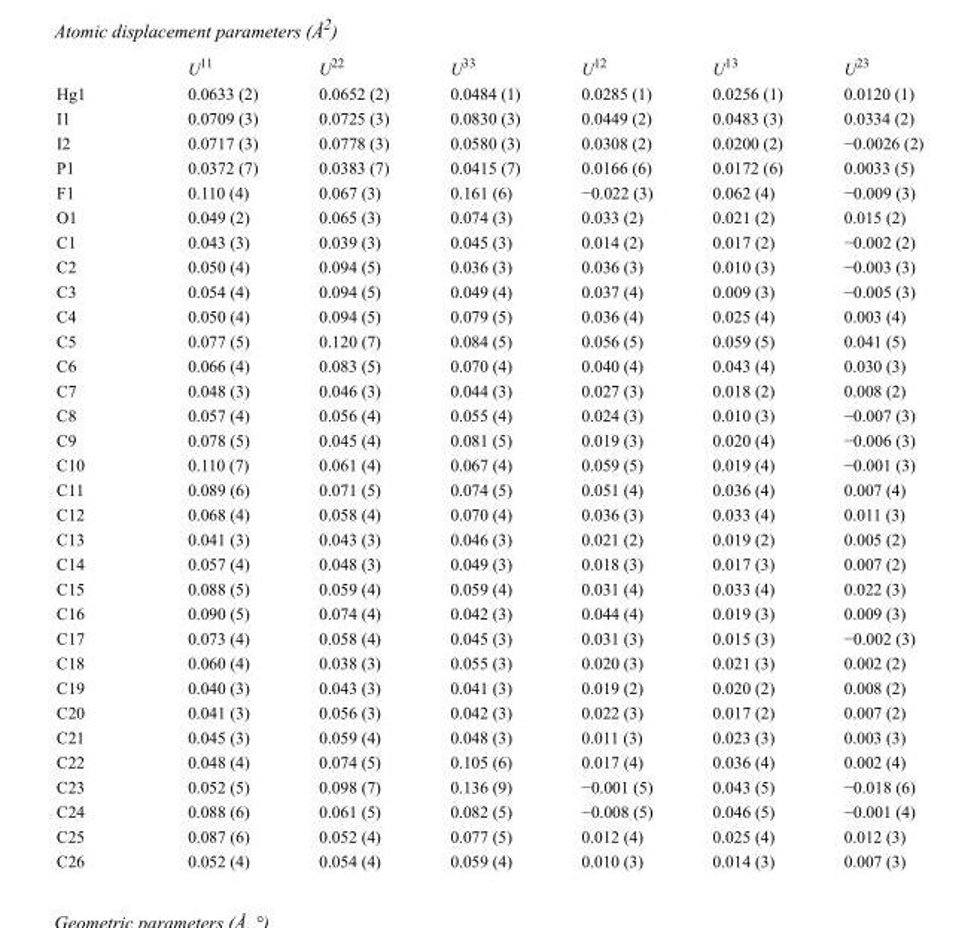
<table><thead><tr><td></td><td>U<sup>11</sup></td><td>U<sup>22</sup></td><td>U<sup>33</sup></td><td>U<sup>12</sup></td><td>U<sup>13</sup></td><td>U<sup>23</sup></td></tr></thead><tbody><tr><td>Hg1</td><td>0.0633 (2)</td><td>0.0652 (2)</td><td>0.0484 (1)</td><td>0.0285 (1)</td><td>0.0256 (1)</td><td>0.0120 (1)</td></tr><tr><td>I1</td><td>0.0709 (3)</td><td>0.0725 (3)</td><td>0.0830 (3)</td><td>0.0449 (2)</td><td>0.0483 (3)</td><td>0.0334 (2)</td></tr><tr><td>I2</td><td>0.0717 (3)</td><td>0.0778 (3)</td><td>0.0580 (3)</td><td>0.0308 (2)</td><td>0.0200 (2)</td><td>−0.0026 (2)</td></tr><tr><td>P1</td><td>0.0372 (7)</td><td>0.0383 (7)</td><td>0.0415 (7)</td><td>0.0166 (6)</td><td>0.0172 (6)</td><td>0.0033 (5)</td></tr><tr><td>F1</td><td>0.110 (4)</td><td>0.067 (3)</td><td>0.161 (6)</td><td>−0.022 (3)</td><td>0.062 (4)</td><td>−0.009 (3)</td></tr><tr><td>O1</td><td>0.049 (2)</td><td>0.065 (3)</td><td>0.074 (3)</td><td>0.033 (2)</td><td>0.021 (2)</td><td>0.015 (2)</td></tr><tr><td>C1</td><td>0.043 (3)</td><td>0.039 (3)</td><td>0.045 (3)</td><td>0.014 (2)</td><td>0.017 (2)</td><td>−0.002 (2)</td></tr><tr><td>C2</td><td>0.050 (4)</td><td>0.094 (5)</td><td>0.036 (3)</td><td>0.036 (3)</td><td>0.010 (3)</td><td>−0.003 (3)</td></tr><tr><td>C3</td><td>0.054 (4)</td><td>0.094 (5)</td><td>0.049 (4)</td><td>0.037 (4)</td><td>0.009 (3)</td><td>−0.005 (3)</td></tr><tr><td>C4</td><td>0.050 (4)</td><td>0.094 (5)</td><td>0.079 (5)</td><td>0.036 (4)</td><td>0.025 (4)</td><td>0.003 (4)</td></tr><tr><td>C5</td><td>0.077 (5)</td><td>0.120 (7)</td><td>0.084 (5)</td><td>0.056 (5)</td><td>0.059 (5)</td><td>0.041 (5)</td></tr><tr><td>C6</td><td>0.066 (4)</td><td>0.083 (5)</td><td>0.070 (4)</td><td>0.040 (4)</td><td>0.043 (4)</td><td>0.030 (3)</td></tr><tr><td>C7</td><td>0.048 (3)</td><td>0.046 (3)</td><td>0.044 (3)</td><td>0.027 (3)</td><td>0.018 (2)</td><td>0.008 (2)</td></tr><tr><td>C8</td><td>0.057 (4)</td><td>0.056 (4)</td><td>0.055 (4)</td><td>0.024 (3)</td><td>0.010 (3)</td><td>−0.007 (3)</td></tr><tr><td>C9</td><td>0.078 (5)</td><td>0.045 (4)</td><td>0.081 (5)</td><td>0.019 (3)</td><td>0.020 (4)</td><td>−0.006 (3)</td></tr><tr><td>C10</td><td>0.110 (7)</td><td>0.061 (4)</td><td>0.067 (4)</td><td>0.059 (5)</td><td>0.019 (4)</td><td>−0.001 (3)</td></tr><tr><td>C11</td><td>0.089 (6)</td><td>0.071 (5)</td><td>0.074 (5)</td><td>0.051 (4)</td><td>0.036 (4)</td><td>0.007 (4)</td></tr><tr><td>C12</td><td>0.068 (4)</td><td>0.058 (4)</td><td>0.070 (4)</td><td>0.036 (3)</td><td>0.033 (4)</td><td>0.011 (3)</td></tr><tr><td>C13</td><td>0.041 (3)</td><td>0.043 (3)</td><td>0.046 (3)</td><td>0.021 (2)</td><td>0.019 (2)</td><td>0.005 (2)</td></tr><tr><td>C14</td><td>0.057 (4)</td><td>0.048 (3)</td><td>0.049 (3)</td><td>0.018 (3)</td><td>0.017 (3)</td><td>0.007 (2)</td></tr><tr><td>C15</td><td>0.088 (5)</td><td>0.059 (4)</td><td>0.059 (4)</td><td>0.031 (4)</td><td>0.033 (4)</td><td>0.022 (3)</td></tr><tr><td>C16</td><td>0.090 (5)</td><td>0.074 (4)</td><td>0.042 (3)</td><td>0.044 (4)</td><td>0.019 (3)</td><td>0.009 (3)</td></tr><tr><td>C17</td><td>0.073 (4)</td><td>0.058 (4)</td><td>0.045 (3)</td><td>0.031 (3)</td><td>0.015 (3)</td><td>−0.002 (3)</td></tr><tr><td>C18</td><td>0.060 (4)</td><td>0.038 (3)</td><td>0.055 (3)</td><td>0.020 (3)</td><td>0.021 (3)</td><td>0.002 (2)</td></tr><tr><td>C19</td><td>0.040 (3)</td><td>0.043 (3)</td><td>0.041 (3)</td><td>0.019 (2)</td><td>0.020 (2)</td><td>0.008 (2)</td></tr><tr><td>C20</td><td>0.041 (3)</td><td>0.056 (3)</td><td>0.042 (3)</td><td>0.022 (3)</td><td>0.017 (2)</td><td>0.007 (2)</td></tr><tr><td>C21</td><td>0.045 (3)</td><td>0.059 (4)</td><td>0.048 (3)</td><td>0.011 (3)</td><td>0.023 (3)</td><td>0.003 (3)</td></tr><tr><td>C22</td><td>0.048 (4)</td><td>0.074 (5)</td><td>0.105 (6)</td><td>0.017 (4)</td><td>0.036 (4)</td><td>0.002 (4)</td></tr><tr><td>C23</td><td>0.052 (5)</td><td>0.098 (7)</td><td>0.136 (9)</td><td>−0.001 (5)</td><td>0.043 (5)</td><td>−0.018 (6)</td></tr><tr><td>C24</td><td>0.088 (6)</td><td>0.061 (5)</td><td>0.082 (5)</td><td>−0.008 (5)</td><td>0.046 (5)</td><td>−0.001 (4)</td></tr><tr><td>C25</td><td>0.087 (6)</td><td>0.052 (4)</td><td>0.077 (5)</td><td>0.012 (4)</td><td>0.025 (4)</td><td>0.012 (3)</td></tr><tr><td>C26</td><td>0.052 (4)</td><td>0.054 (4)</td><td>0.059 (4)</td><td>0.010 (3)</td><td>0.014 (3)</td><td>0.007 (3)</td></tr></tbody></table>